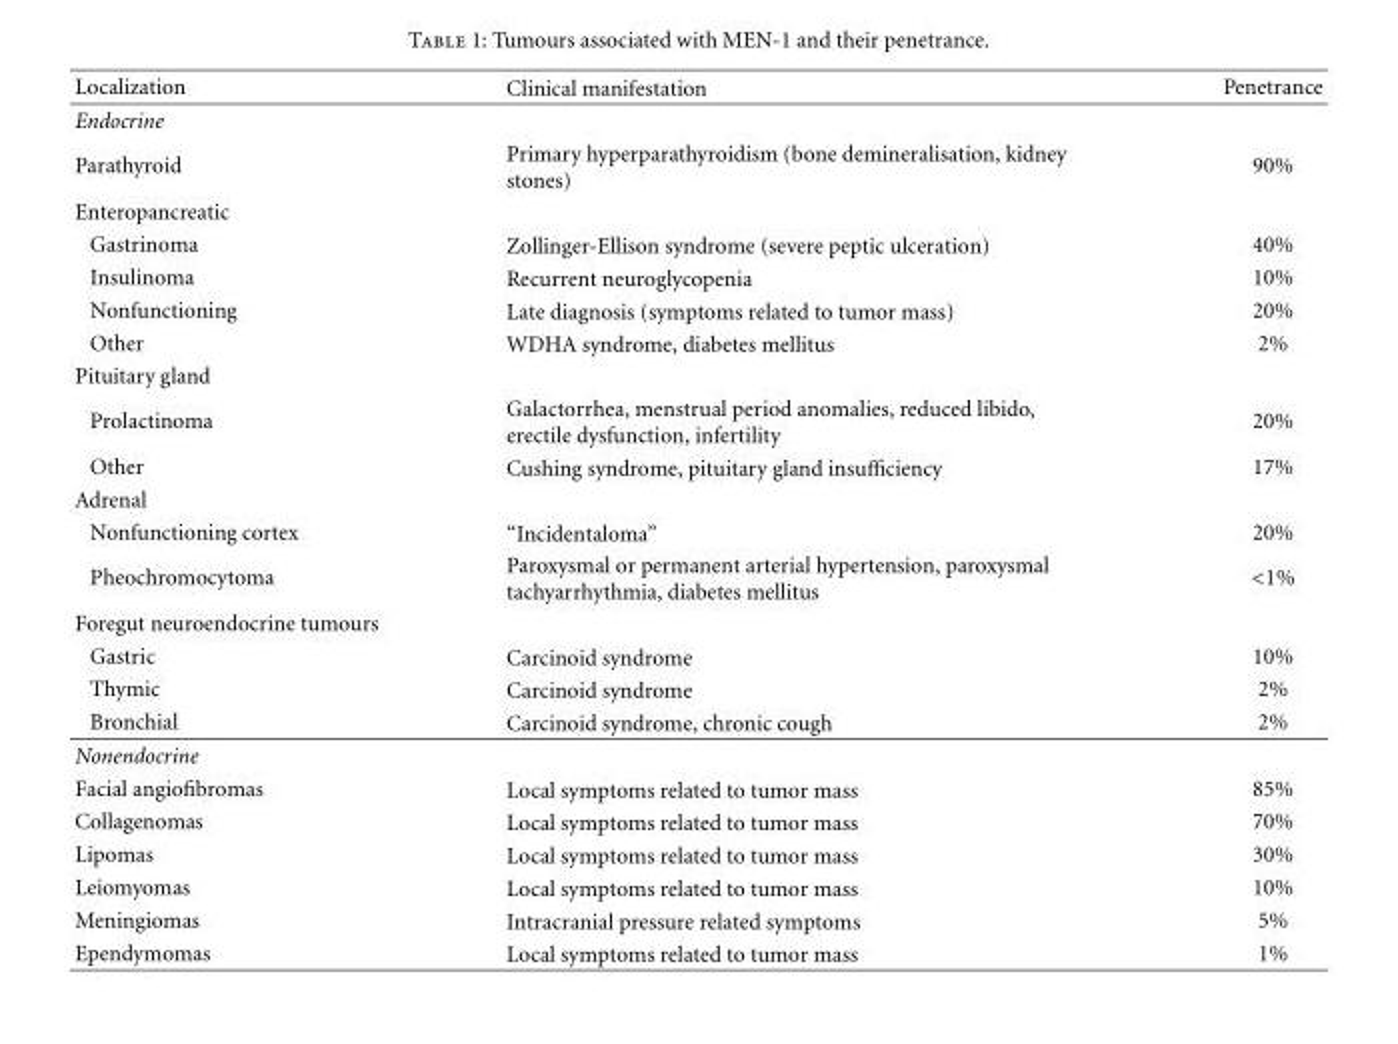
<table><thead><tr><td>Localization</td><td>Clinical manifestation</td><td>Penetrance</td></tr></thead><tbody><tr><td colspan="3">Endocrine</td></tr><tr><td>Parathyroid</td><td>Primary hyperparathyroidism (bone demineralisation, kidney stones)</td><td>90%</td></tr><tr><td colspan="3">Enteropancreatic</td></tr><tr><td>Gastrinoma</td><td>Zollinger-Ellison syndrome (severe peptic ulceration)</td><td>40%</td></tr><tr><td>Insulinoma</td><td>Recurrent neuroglycopenia</td><td>10%</td></tr><tr><td>Nonfunctioning</td><td>Late diagnosis (symptoms related to tumor mass)</td><td>20%</td></tr><tr><td>Other</td><td>WDHA syndrome, diabetes mellitus</td><td>2%</td></tr><tr><td colspan="3">Pituitary gland</td></tr><tr><td>Prolactinoma</td><td>Galactorrhea, menstrual period anomalies, reduced libido, erectile dysfunction, infertility</td><td>20%</td></tr><tr><td>Other</td><td>Cushing syndrome, pituitary gland insufficiency</td><td>17%</td></tr><tr><td colspan="3">Adrenal</td></tr><tr><td>Nonfunctioning cortex</td><td>“Incidentaloma”</td><td>20%</td></tr><tr><td>Pheochromocytoma</td><td>Paroxysmal or permanent arterial hypertension, paroxysmal tachyarrhythmia, diabetes mellitus</td><td>&lt;1%</td></tr><tr><td colspan="3">Foregut neuroendocrine tumours</td></tr><tr><td>Gastric</td><td>Carcinoid syndrome</td><td>10%</td></tr><tr><td>Thymic</td><td>Carcinoid syndrome</td><td>2%</td></tr><tr><td>Bronchial</td><td>Carcinoid syndrome, chronic cough</td><td>2%</td></tr><tr><td colspan="3">Nonendocrine</td></tr><tr><td>Facial angiofibromas</td><td>Local symptoms related to tumor mass</td><td>85%</td></tr><tr><td>Collagenomas</td><td>Local symptoms related to tumor mass</td><td>70%</td></tr><tr><td>Lipomas</td><td>Local symptoms related to tumor mass</td><td>30%</td></tr><tr><td>Leiomyomas</td><td>Local symptoms related to tumor mass</td><td>10%</td></tr><tr><td>Meningiomas</td><td>Intracranial pressure related symptoms</td><td>5%</td></tr><tr><td>Ependymomas</td><td>Local symptoms related to tumor mass</td><td>1%</td></tr></tbody></table>